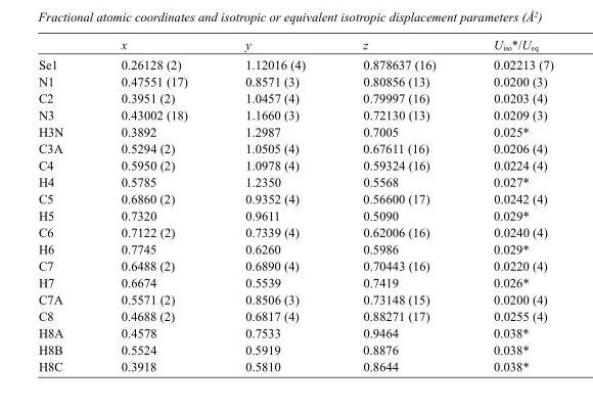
<table><thead><tr><td></td><td>x</td><td>y</td><td>z</td><td>U<sub>iso</sub>*/U<sub>eq</sub></td></tr></thead><tbody><tr><td>Se1</td><td>0.26128 (2)</td><td>1.12016 (4)</td><td>0.878637 (16)</td><td>0.02213 (7)</td></tr><tr><td>N1</td><td>0.47551 (17)</td><td>0.8571 (3)</td><td>0.80856 (13)</td><td>0.0200 (3)</td></tr><tr><td>C2</td><td>0.3951 (2)</td><td>1.0457 (4)</td><td>0.79997 (16)</td><td>0.0203 (4)</td></tr><tr><td>N3</td><td>0.43002 (18)</td><td>1.1660 (3)</td><td>0.72130 (13)</td><td>0.0209 (3)</td></tr><tr><td>H3N</td><td>0.3892</td><td>1.2987</td><td>0.7005</td><td>0.025*</td></tr><tr><td>C3A</td><td>0.5294 (2)</td><td>1.0505 (4)</td><td>0.67611 (16)</td><td>0.0206 (4)</td></tr><tr><td>C4</td><td>0.5950 (2)</td><td>1.0978 (4)</td><td>0.59324 (16)</td><td>0.0224 (4)</td></tr><tr><td>H4</td><td>0.5785</td><td>1.2350</td><td>0.5568</td><td>0.027*</td></tr><tr><td>C5</td><td>0.6860 (2)</td><td>0.9352 (4)</td><td>0.56600 (17)</td><td>0.0242 (4)</td></tr><tr><td>H5</td><td>0.7320</td><td>0.9611</td><td>0.5090</td><td>0.029*</td></tr><tr><td>C6</td><td>0.7122 (2)</td><td>0.7339 (4)</td><td>0.62006 (16)</td><td>0.0240 (4)</td></tr><tr><td>H6</td><td>0.7745</td><td>0.6260</td><td>0.5986</td><td>0.029*</td></tr><tr><td>C7</td><td>0.6488 (2)</td><td>0.6890 (4)</td><td>0.70443 (16)</td><td>0.0220 (4)</td></tr><tr><td>H7</td><td>0.6674</td><td>0.5539</td><td>0.7419</td><td>0.026*</td></tr><tr><td>C7A</td><td>0.5571 (2)</td><td>0.8506 (3)</td><td>0.73148 (15)</td><td>0.0200 (4)</td></tr><tr><td>C8</td><td>0.4688 (2)</td><td>0.6817 (4)</td><td>0.88271 (17)</td><td>0.0255 (4)</td></tr><tr><td>H8A</td><td>0.4578</td><td>0.7533</td><td>0.9464</td><td>0.038*</td></tr><tr><td>H8B</td><td>0.5524</td><td>0.5919</td><td>0.8876</td><td>0.038*</td></tr><tr><td>H8C</td><td>0.3918</td><td>0.5810</td><td>0.8644</td><td>0.038*</td></tr></tbody></table>